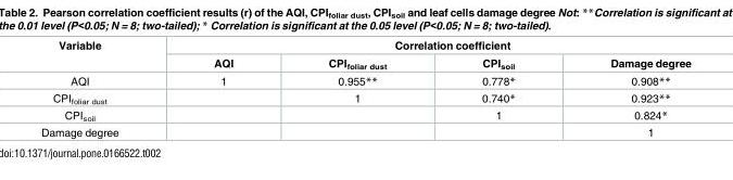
<table><thead><tr><td rowspan="2">Variable</td><td colspan="4">Correlation coefficient</td></tr><tr><td>AQI</td><td>CPI<sub>foliar dust</sub></td><td>CPI<sub>soil</sub></td><td>Damage degree</td></tr></thead><tbody><tr><td>AQI</td><td>1</td><td>0.955**</td><td>0.778*</td><td>0.908**</td></tr><tr><td>CPI<sub>foliar dust</sub></td><td></td><td>1</td><td>0.740*</td><td>0.923**</td></tr><tr><td>CPI<sub>soil</sub></td><td></td><td></td><td>1</td><td>0.824*</td></tr><tr><td>Damage degree</td><td></td><td></td><td></td><td>1</td></tr></tbody></table>